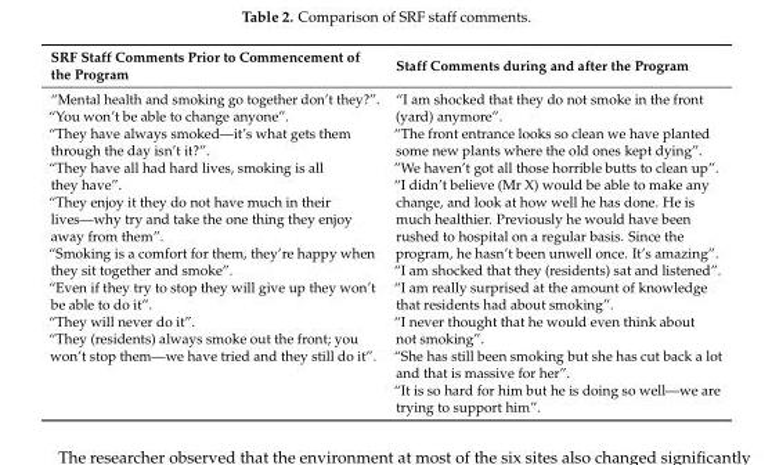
<table><thead><tr><td>SRF Staff Comments Prior to Commencement of the Program</td><td>Staff Comments during and after the Program</td></tr></thead><tbody><tr><td>“Mental health and smoking go together don’t they?”. “You won’t be able to change anyone”. “They have always smoked—it’s what gets them through the day isn’t it?”. “They have all had hard lives, smoking is all they have”. “They enjoy it they do not have much in their lives—why try and take the one thing they enjoy away from them”. “Smoking is a comfort for them, they’re happy when they sit together and smoke”. “Even if they try to stop they will give up they won’t be able to do it”. “They will never do it”. “They (residents) always smoke out the front; you won’t stop them—we have tried and they still do it”.</td><td>“I am shocked that they do not smoke in the front (yard) anymore”. “The front entrance looks so clean we have planted some new plants where the old ones kept dying”. ”We haven’t got all those horrible butts to clean up”. “I didn’t believe (Mr X) would be able to make any change, and look at how well he has done. He is much healthier. Previously he would have been rushed to hospital on a regular basis. Since the program, he hasn’t been unwell once. It’s amazing”. “I am shocked that they (residents) sat and listened”. “I am really surprised at the amount of knowledge that residents had about smoking”. “I never thought that he would even think about not smoking”. “She has still been smoking but she has cut back a lot and that is massive for her”. “It is so hard for him but he is doing so well—we are trying to support him”.</td></tr></tbody></table>